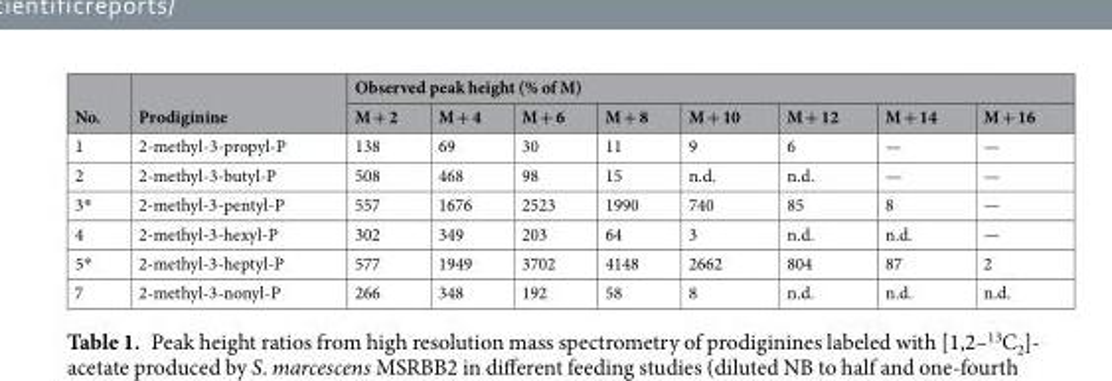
<table><thead><tr><td rowspan="2">No.</td><td rowspan="2">Prodiginine</td><td colspan="8">Observed peak height (% of M)</td></tr><tr><td>M + 2</td><td>M + 4</td><td>M + 6</td><td>M + 8</td><td>M + 10</td><td>M + 12</td><td>M + 14</td><td>M + 16</td></tr></thead><tbody><tr><td>1</td><td>2-methyl-3-propyl-P</td><td>138</td><td>69</td><td>30</td><td>11</td><td>9</td><td>6</td><td>—</td><td>—</td></tr><tr><td>2</td><td>2-methyl-3-butyl-P</td><td>508</td><td>468</td><td>98</td><td>15</td><td>n.d.</td><td>n.d.</td><td>—</td><td>—</td></tr><tr><td>3*</td><td>2-methyl-3-pentyl-P</td><td>557</td><td>1676</td><td>2523</td><td>1990</td><td>740</td><td>85</td><td>8</td><td>—</td></tr><tr><td>4</td><td>2-methyl-3-hexyl-P</td><td>302</td><td>349</td><td>203</td><td>64</td><td>3</td><td>n.d.</td><td>n.d.</td><td>—</td></tr><tr><td>5*</td><td>2-methyl-3-heptyl-P</td><td>577</td><td>1949</td><td>3702</td><td>4148</td><td>2662</td><td>804</td><td>87</td><td>2</td></tr><tr><td>7</td><td>2-methyl-3-nonyl-P</td><td>266</td><td>348</td><td>192</td><td>58</td><td>8</td><td>n.d.</td><td>n.d.</td><td>n.d.</td></tr></tbody></table>